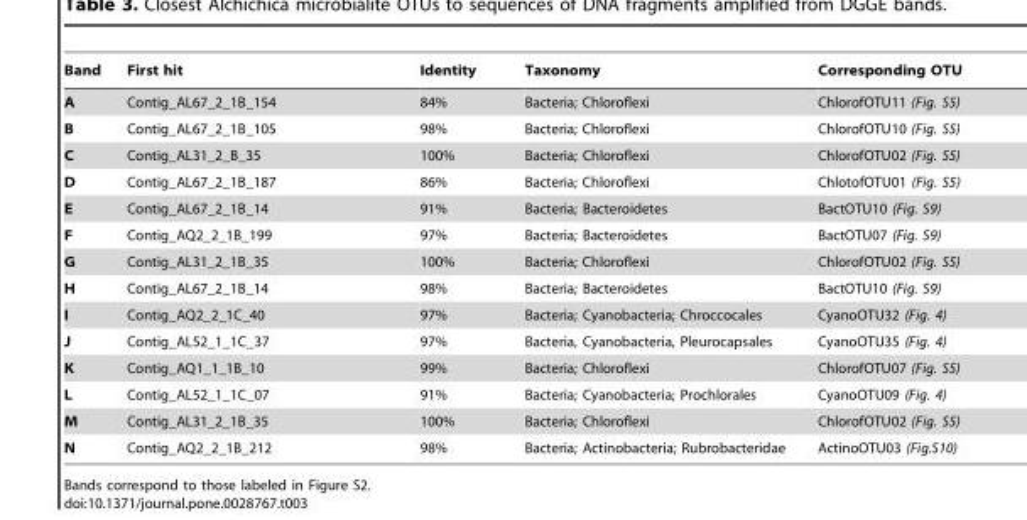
<table><thead><tr><td>Band</td><td>First hit</td><td>Identity</td><td>Taxonomy</td><td>Corresponding OTU</td></tr></thead><tbody><tr><td>A</td><td>Contig_AL67_2_1B_154</td><td>84%</td><td>Bacteria; Chloroflexi</td><td>ChlorofOTU11 (Fig. S5)</td></tr><tr><td>B</td><td>Contig_AL67_2_1B_105</td><td>98%</td><td>Bacteria; Chloroflexi</td><td>ChlorofOTU10 (Fig. S5)</td></tr><tr><td>C</td><td>Contig_AL31_2_B_35</td><td>100%</td><td>Bacteria; Chloroflexi</td><td>ChlorofOTU02 (Fig. S5)</td></tr><tr><td>D</td><td>Contig_AL67_2_1B_187</td><td>86%</td><td>Bacteria; Chloroflexi</td><td>ChlotofOTU01 (Fig. S5)</td></tr><tr><td>E</td><td>Contig_AL67_2_1B_14</td><td>91%</td><td>Bacteria; Bacteroidetes</td><td>BactOTU10 (Fig. S9)</td></tr><tr><td>F</td><td>Contig_AQ2_2_1B_199</td><td>97%</td><td>Bacteria; Bacteroidetes</td><td>BactOTU07 (Fig. S9)</td></tr><tr><td>G</td><td>Contig_AL31_2_1B_35</td><td>100%</td><td>Bacteria; Chloroflexi</td><td>ChlorofOTU02 (Fig. S5)</td></tr><tr><td>H</td><td>Contig_AL67_2_1B_14</td><td>98%</td><td>Bacteria; Bacteroidetes</td><td>BactOTU10 (Fig. S9)</td></tr><tr><td>I</td><td>Contig_AQ2_2_1C_40</td><td>97%</td><td>Bacteria; Cyanobacteria; Chroccocales</td><td>CyanoOTU32 (Fig. 4)</td></tr><tr><td>J</td><td>Contig_AL52_1_1C_37</td><td>97%</td><td>Bacteria, Cyanobacteria, Pleurocapsales</td><td>CyanoOTU35 (Fig. 4)</td></tr><tr><td>K</td><td>Contig_AQ1_1_1B_10</td><td>99%</td><td>Bacteria; Chloroflexi</td><td>ChlorofOTU07 (Fig. S5)</td></tr><tr><td>L</td><td>Contig_AL52_1_1C_07</td><td>91%</td><td>Bacteria; Cyanobacteria; Prochlorales</td><td>CyanoOTU09 (Fig. 4)</td></tr><tr><td>M</td><td>Contig_AL31_2_1B_35</td><td>100%</td><td>Bacteria; Chloroflexi</td><td>ChlorofOTU02 (Fig. S5)</td></tr><tr><td>N</td><td>Contig_AQ2_2_1B_212</td><td>98%</td><td>Bacteria; Actinobacteria; Rubrobacteridae</td><td>ActinoOTU03 (Fig.S10)</td></tr></tbody></table>